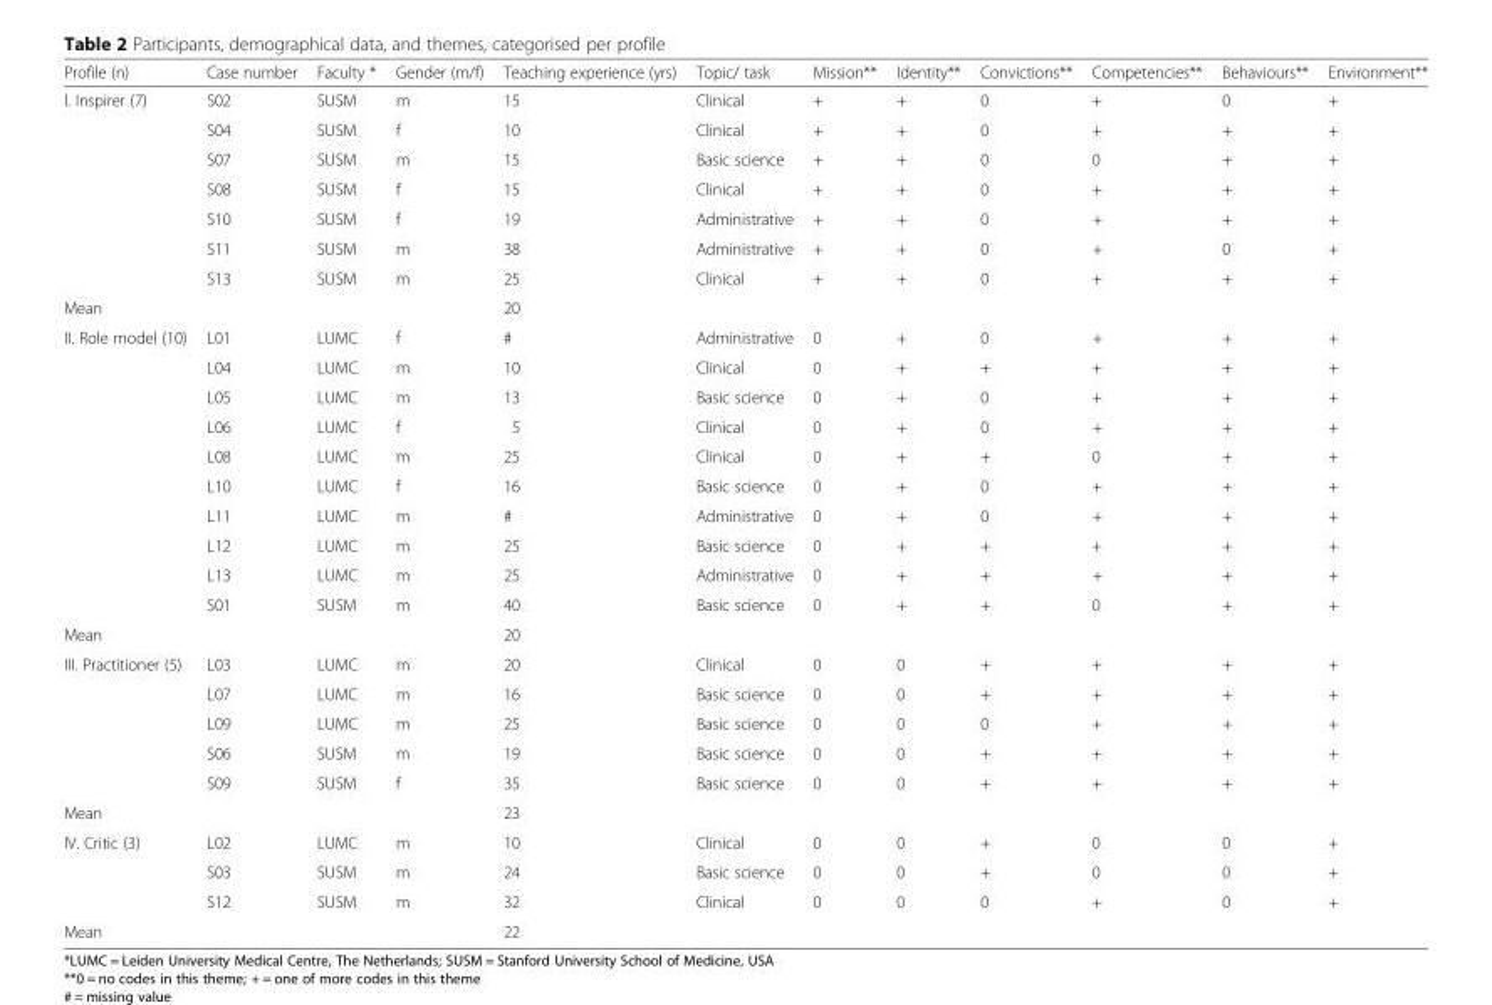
<table><thead><tr><td>Profile (n)</td><td>Case number</td><td>Faculty *</td><td>Gender (m/f)</td><td>Teaching experience (yrs)</td><td>Topic/ task</td><td>Mission**</td><td>Identity**</td><td>Convictions**</td><td>Competencies**</td><td>Behaviours**</td><td>Environment**</td></tr></thead><tbody><tr><td rowspan="7">l. Inspirer (7)</td><td>S02</td><td>SUSM</td><td>m</td><td>15</td><td>Clinical</td><td>+</td><td>+</td><td>0</td><td>+</td><td>0</td><td>+</td></tr><tr><td>S04</td><td>SUSM</td><td>f</td><td>10</td><td>Clinical</td><td>+</td><td>+</td><td>0</td><td>+</td><td>+</td><td>+</td></tr><tr><td>S07</td><td>SUSM</td><td>m</td><td>15</td><td>Basic science</td><td>+</td><td>+</td><td>0</td><td>0</td><td>+</td><td>+</td></tr><tr><td>S08</td><td>SUSM</td><td>f</td><td>15</td><td>Clinical</td><td>+</td><td>+</td><td>0</td><td>+</td><td>+</td><td>+</td></tr><tr><td>S10</td><td>SUSM</td><td>f</td><td>19</td><td>Administrative</td><td>+</td><td>+</td><td>0</td><td>+</td><td>+</td><td>+</td></tr><tr><td>S11</td><td>SUSM</td><td>m</td><td>38</td><td>Administrative</td><td>+</td><td>+</td><td>0</td><td>+</td><td>0</td><td>+</td></tr><tr><td>S13</td><td>SUSM</td><td>m</td><td>25</td><td>Clinical</td><td>+</td><td>+</td><td>0</td><td>+</td><td>+</td><td>+</td></tr><tr><td>Mean</td><td></td><td></td><td></td><td>20</td><td></td><td></td><td></td><td></td><td></td><td></td><td></td></tr><tr><td rowspan="10">II. Role model (10)</td><td>L01</td><td>LUMC</td><td>f</td><td>#</td><td>Administrative</td><td>0</td><td>+</td><td>0</td><td>+</td><td>+</td><td>+</td></tr><tr><td>L04</td><td>LUMC</td><td>m</td><td>10</td><td>Clinical</td><td>0</td><td>+</td><td>+</td><td>+</td><td>+</td><td>+</td></tr><tr><td>L05</td><td>LUMC</td><td>m</td><td>13</td><td>Basic science</td><td>0</td><td>+</td><td>0</td><td>+</td><td>+</td><td>+</td></tr><tr><td>L06</td><td>LUMC</td><td>f</td><td>5</td><td>Clinical</td><td>0</td><td>+</td><td>0</td><td>+</td><td>+</td><td>+</td></tr><tr><td>L08</td><td>LUMC</td><td>m</td><td>25</td><td>Clinical</td><td>0</td><td>+</td><td>+</td><td>0</td><td>+</td><td>+</td></tr><tr><td>L10</td><td>LUMC</td><td>f</td><td>16</td><td>Basic science</td><td>0</td><td>+</td><td>0</td><td>+</td><td>+</td><td>+</td></tr><tr><td>L11</td><td>LUMC</td><td>m</td><td>#</td><td>Administrative</td><td>0</td><td>+</td><td>0</td><td>+</td><td>+</td><td>+</td></tr><tr><td>L12</td><td>LUMC</td><td>m</td><td>25</td><td>Basic science</td><td>0</td><td>+</td><td>+</td><td>+</td><td>+</td><td>+</td></tr><tr><td>L13</td><td>LUMC</td><td>m</td><td>25</td><td>Administrative</td><td>0</td><td>+</td><td>+</td><td>+</td><td>+</td><td>+</td></tr><tr><td>S01</td><td>SUSM</td><td>m</td><td>40</td><td>Basic science</td><td>0</td><td>+</td><td>+</td><td>0</td><td>+</td><td>+</td></tr><tr><td>Mean</td><td></td><td></td><td></td><td>20</td><td></td><td></td><td></td><td></td><td></td><td></td><td></td></tr><tr><td rowspan="5">III. Practitioner (5)</td><td>L03</td><td>LUMC</td><td>m</td><td>20</td><td>Clinical</td><td>0</td><td>0</td><td>+</td><td>+</td><td>+</td><td>+</td></tr><tr><td>L07</td><td>LUMC</td><td>m</td><td>16</td><td>Basic science</td><td>0</td><td>0</td><td>+</td><td>+</td><td>+</td><td>+</td></tr><tr><td>L09</td><td>LUMC</td><td>m</td><td>25</td><td>Basic science</td><td>0</td><td>0</td><td>0</td><td>+</td><td>+</td><td>+</td></tr><tr><td>S06</td><td>SUSM</td><td>m</td><td>19</td><td>Basic science</td><td>0</td><td>0</td><td>+</td><td>+</td><td>+</td><td>+</td></tr><tr><td>S09</td><td>SUSM</td><td>f</td><td>35</td><td>Basic science</td><td>0</td><td>0</td><td>+</td><td>+</td><td>+</td><td>+</td></tr><tr><td>Mean</td><td></td><td></td><td></td><td>23</td><td></td><td></td><td></td><td></td><td></td><td></td><td></td></tr><tr><td rowspan="3">IV. Critic (3)</td><td>L02</td><td>LUMC</td><td>m</td><td>10</td><td>Clinical</td><td>0</td><td>0</td><td>+</td><td>0</td><td>0</td><td>+</td></tr><tr><td>S03</td><td>SUSM</td><td>m</td><td>24</td><td>Basic science</td><td>0</td><td>0</td><td>+</td><td>0</td><td>0</td><td>+</td></tr><tr><td>S12</td><td>SUSM</td><td>m</td><td>32</td><td>Clinical</td><td>0</td><td>0</td><td>0</td><td>+</td><td>0</td><td>+</td></tr><tr><td>Mean</td><td></td><td></td><td></td><td>22</td><td></td><td></td><td></td><td></td><td></td><td></td><td></td></tr></tbody></table>